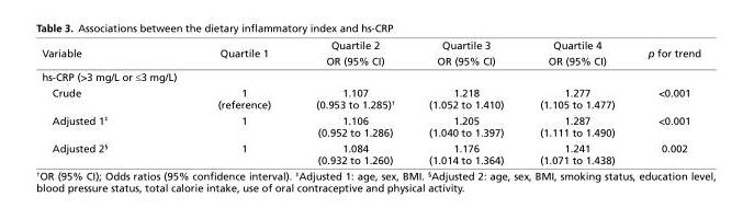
<table><thead><tr><td rowspan="2">Variable</td><td rowspan="2">Quartile 1</td><td rowspan="2">Quartile 2 OR (95% CI)</td><td rowspan="2">Quartile 3 OR (95% CI)</td><td rowspan="2">Quartile 4 OR (95% CI)</td><td rowspan="2">p for trend</td></tr><tr></tr></thead><tbody><tr><td colspan="6">hs-CRP (&gt;3 mg/L or ≤3 mg/L)</td></tr><tr><td>Crude</td><td>1 (reference)</td><td>1.107 (0.953 to 1.285)<sup>†</sup></td><td>1.218 (1.052 to 1.410)</td><td>1.277 (1.105 to 1.477)</td><td>&lt;0.001</td></tr><tr><td>Adjusted 1<sup>‡</sup></td><td>1</td><td>1.106 (0.952 to 1.286)</td><td>1.205 (1.040 to 1.397)</td><td>1.287 (1.111 to 1.490)</td><td>&lt;0.001</td></tr><tr><td>Adjusted 2<sup>§</sup></td><td>1</td><td>1.084 (0.932 to 1.260)</td><td>1.176 (1.014 to 1.364)</td><td>1.241 (1.071 to 1.438)</td><td>0.002</td></tr></tbody></table>